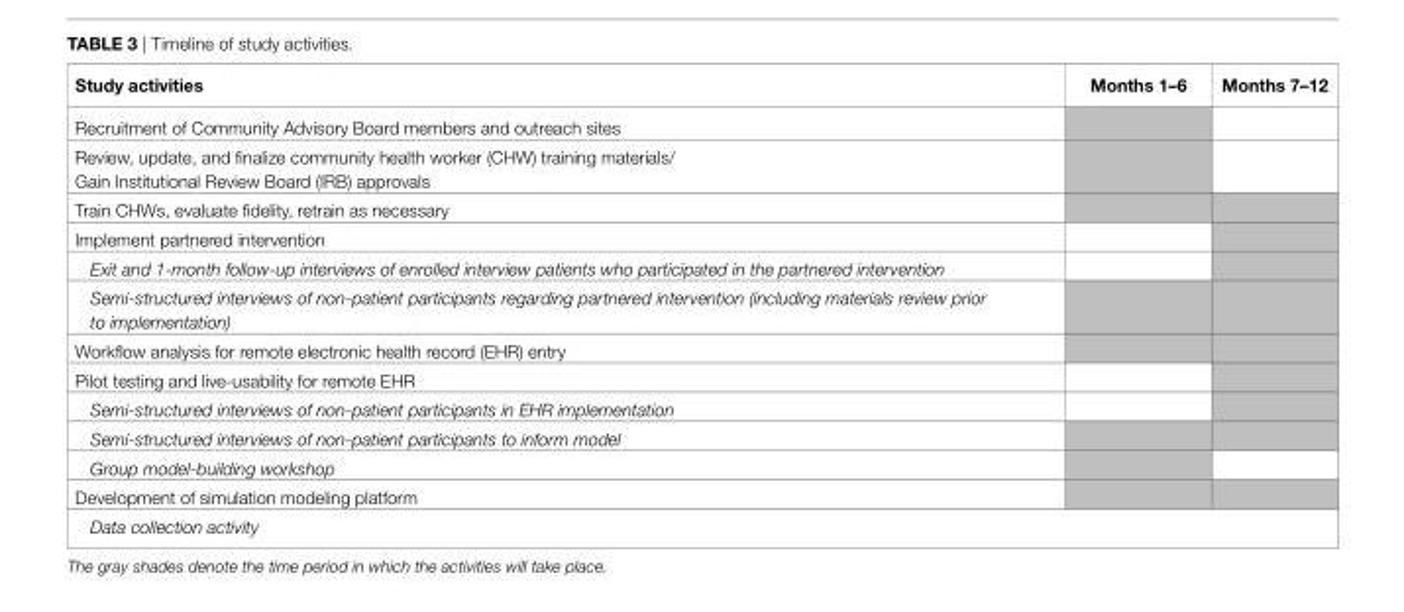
<table><thead><tr><td>study activities</td><td>Months 1–6</td><td>Months 7–12</td></tr></thead><tbody><tr><td colspan="3">Recruitment of Community Advisory Board members and outreach sites</td></tr><tr><td colspan="3">Review, update, and finalize community health worker (CHW) training materials/ Gain Institutional Review Board (IRB) approvals</td></tr><tr><td colspan="3">Train CHWs, evaluate fidelity, retrain as necessary</td></tr><tr><td colspan="3">Implement partnered intervention</td></tr><tr><td colspan="3">Exit and 1-month follow-up interviews of enrolled interview patients who participated in the partnered intervention</td></tr><tr><td colspan="3">Semi-structured interviews of non-patient participants regarding partnered intervention (including materials review prior to implementation)</td></tr><tr><td colspan="3">Workflow analysis for remote electronic health record (EHR) entry</td></tr><tr><td colspan="3">Pilot testing and live-usability for remote EHR</td></tr><tr><td colspan="3">Semi-structured interviews of non-patient participants in EHR implementation</td></tr><tr><td colspan="3">Semi-structured interviews of non-patient participants to inform model</td></tr><tr><td colspan="3">Group model-building workshop</td></tr><tr><td colspan="3">Development of simulation modeling platform</td></tr><tr><td colspan="3">Data collection activity</td></tr></tbody></table>